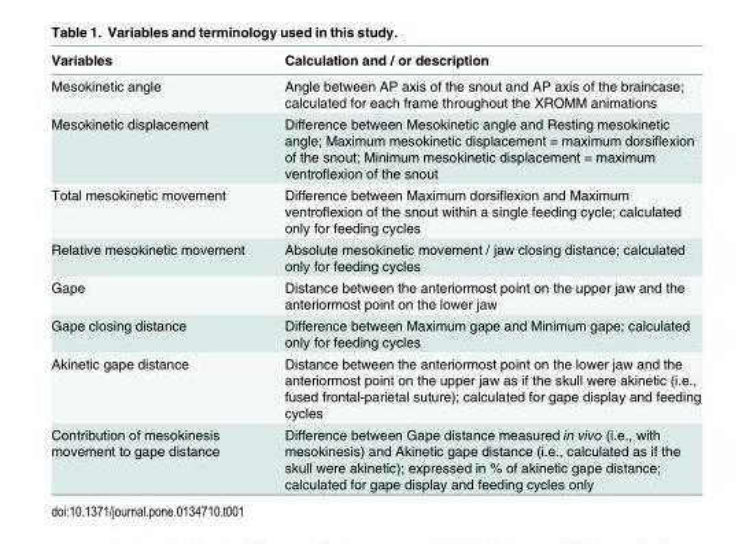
<table><thead><tr><td>Variables</td><td>Calculation and / or description</td></tr></thead><tbody><tr><td>Mesokinetic angle</td><td>Angle between AP axis of the snout and AP axis of the braincase; calculated for each frame throughout the XROMM animations</td></tr><tr><td>Mesokinetic displacement</td><td>Difference between Mesokinetic angle and Resting mesokinetic angle; Maximum mesokinetic displacement = maximum dorsiflexion of the snout; Minimum mesokinetic displacement = maximum ventroflexion of the snout</td></tr><tr><td>Total mesokinetic movement</td><td>Difference between Maximum dorsiflexion and Maximum ventroflexion of the snout within a single feeding cycle; calculated only for feeding cycles</td></tr><tr><td>Relative mesokinetic movement</td><td>Absolute mesokinetic movement / jaw closing distance; calculated only for feeding cycles</td></tr><tr><td>Gape</td><td>Distance between the anteriormost point on the upper jaw and the anteriormost point on the lower jaw</td></tr><tr><td>Gape closing distance</td><td>Difference between Maximum gape and Minimum gape; calculated only for feeding cycles</td></tr><tr><td>Akinetic gape distance</td><td>Distance between the anteriormost point on the lower jaw and the anteriormost point on the upper jaw as if the skull were akinetic (i.e., fused frontal-parietal suture); calculated for gape display and feeding cycles</td></tr><tr><td>Contribution of mesokinesis movement to gape distance</td><td>Difference between Gape distance measured in vivo (i.e., with mesokinesis) and Akinetic gape distance (i.e., calculated as if the skull were akinetic); expressed in % of akinetic gape distance; calculated for gape display and feeding cycles only</td></tr></tbody></table>